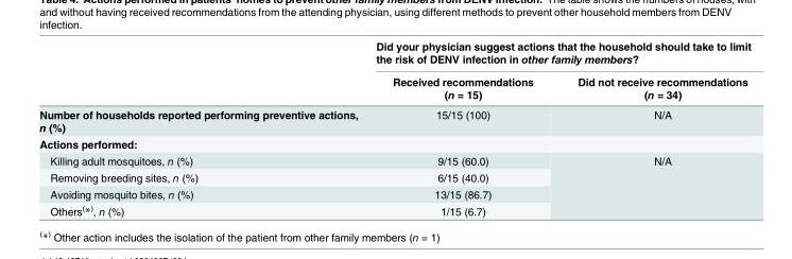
<table><thead><tr><td rowspan="2"></td><td colspan="2">Did your physician suggest actions that the household should take to limit the risk of DENV infection in other family members?</td></tr><tr><td>Received recommendations (n = 15)</td><td>Did not receive recommendations (n = 34)</td></tr></thead><tbody><tr><td>Number of households reported performing preventive actions, n (%)</td><td>15/15 (100)</td><td>N/A</td></tr><tr><td colspan="3">Actions performed:</td></tr><tr><td>Killing adult mosquitoes, n (%)</td><td>9/15 (60.0)</td><td rowspan="4">N/A</td></tr><tr><td>Removing breeding sites, n (%)</td><td>6/15 (40.0)</td></tr><tr><td>Avoiding mosquito bites, n (%)</td><td>13/15 (86.7)</td></tr><tr><td>Others<sup>(</sup>*<sup>)</sup>, n (%)</td><td>1/15 (6.7)</td></tr></tbody></table>